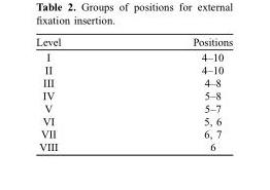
<table><thead><tr><td>Level</td><td>Positions</td></tr></thead><tbody><tr><td>I</td><td>4–10</td></tr><tr><td>II</td><td>4–10</td></tr><tr><td>III</td><td>4–8</td></tr><tr><td>IV</td><td>5–8</td></tr><tr><td>V</td><td>5–7</td></tr><tr><td>VI</td><td>5, 6</td></tr><tr><td>VII</td><td>6, 7</td></tr><tr><td>VIII</td><td>6</td></tr></tbody></table>